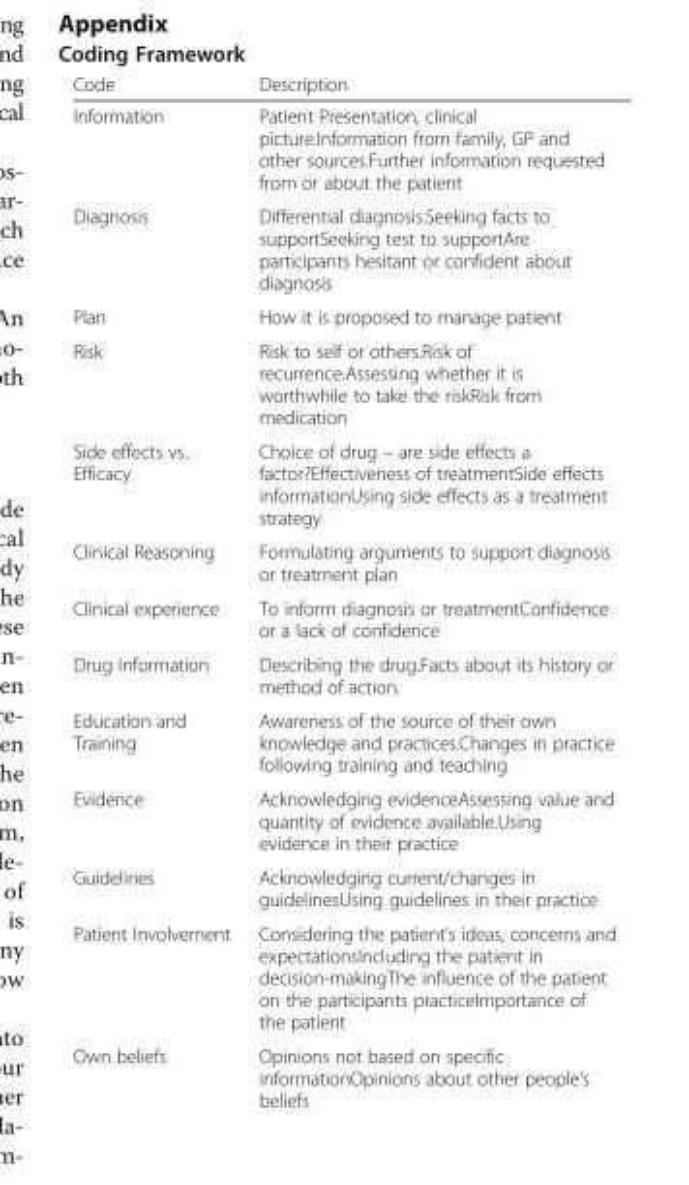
<table><thead><tr><td>Code</td><td>Description</td></tr></thead><tbody><tr><td>Information</td><td>Patient Presentation, clinical picture.Information from family, GP and other sources.Further information requested from or about the patient</td></tr><tr><td>Diagnosis</td><td>Differential diagnosis.Seeking facts to supportSeeking test to supportAre participants hesitant or confident about diagnosis</td></tr><tr><td>Plan</td><td>How it is proposed to manage patient</td></tr><tr><td>Risk</td><td>Risk to self or others.Risk of recurrence.Assessing whether it is worthwhile to take the riskRisk from medication</td></tr><tr><td>Side effects vs. Efficacy</td><td>Choice of drug – are side effects a factor?Effectiveness of treatmentSide effects informationUsing side effects as a treatment strategy</td></tr><tr><td>Clinical Reasoning</td><td>Formulating arguments to support diagnosis or treatment plan</td></tr><tr><td>Clinical experience</td><td>To inform diagnosis or treatmentConfidence or a lack of confidence</td></tr><tr><td>Drug Information</td><td>Describing the drug.Facts about its history or method of action.</td></tr><tr><td>Education and Training</td><td>Awareness of the source of their own knowledge and practices.Changes in practice following training and teaching</td></tr><tr><td>Evidence</td><td>Acknowledging evidenceAssessing value and quantity of evidence available.Using evidence in their practice</td></tr><tr><td>Guidelines</td><td>Acknowledging current/changes in guidelinesUsing guidelines in their practice</td></tr><tr><td>Patient Involvement</td><td>Considering the patient’s ideas, concerns and expectationsIncluding the patient in decision-makingThe influence of the patient on the participants practiceImportance of the patient</td></tr><tr><td>Own beliefs</td><td>Opinions not based on specific informationOpinions about other people’s beliefs</td></tr></tbody></table>